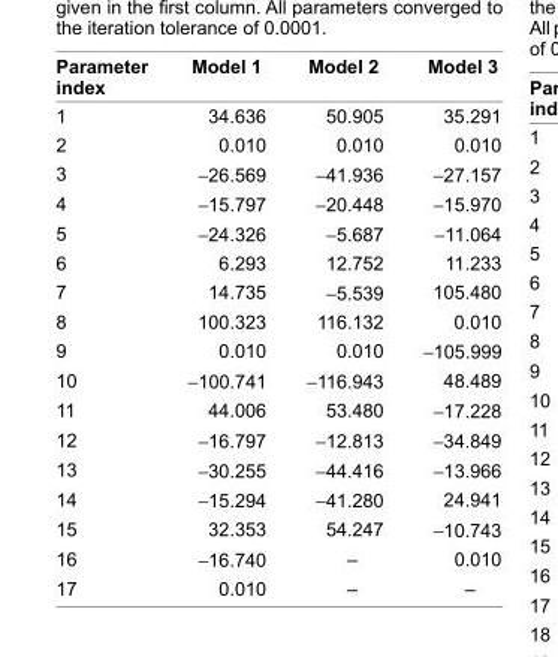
<table><thead><tr><td>Parameter index</td><td>Model 1</td><td>Model 2</td><td>Model 3</td></tr></thead><tbody><tr><td>1</td><td>34.636</td><td>50.905</td><td>35.291</td></tr><tr><td>2</td><td>0.010</td><td>0.010</td><td>0.010</td></tr><tr><td>3</td><td>−26.569</td><td>−41.936</td><td>−27.157</td></tr><tr><td>4</td><td>−15.797</td><td>−20.448</td><td>−15.970</td></tr><tr><td>5</td><td>−24.326</td><td>−5.687</td><td>−11.064</td></tr><tr><td>6</td><td>6.293</td><td>12.752</td><td>11.233</td></tr><tr><td>7</td><td>14.735</td><td>−5.539</td><td>105.480</td></tr><tr><td>8</td><td>100.323</td><td>116.132</td><td>0.010</td></tr><tr><td>9</td><td>0.010</td><td>0.010</td><td>−105.999</td></tr><tr><td>10</td><td>−100.741</td><td>−116.943</td><td>48.489</td></tr><tr><td>11</td><td>44.006</td><td>53.480</td><td>−17.228</td></tr><tr><td>12</td><td>−16.797</td><td>−12.813</td><td>−34.849</td></tr><tr><td>13</td><td>−30.255</td><td>−44.416</td><td>−13.966</td></tr><tr><td>14</td><td>−15.294</td><td>−41.280</td><td>24.941</td></tr><tr><td>15</td><td>32.353</td><td>54.247</td><td>−10.743</td></tr><tr><td>16</td><td>−16.740</td><td>–</td><td>0.010</td></tr><tr><td>17</td><td>0.010</td><td>–</td><td>–</td></tr></tbody></table>